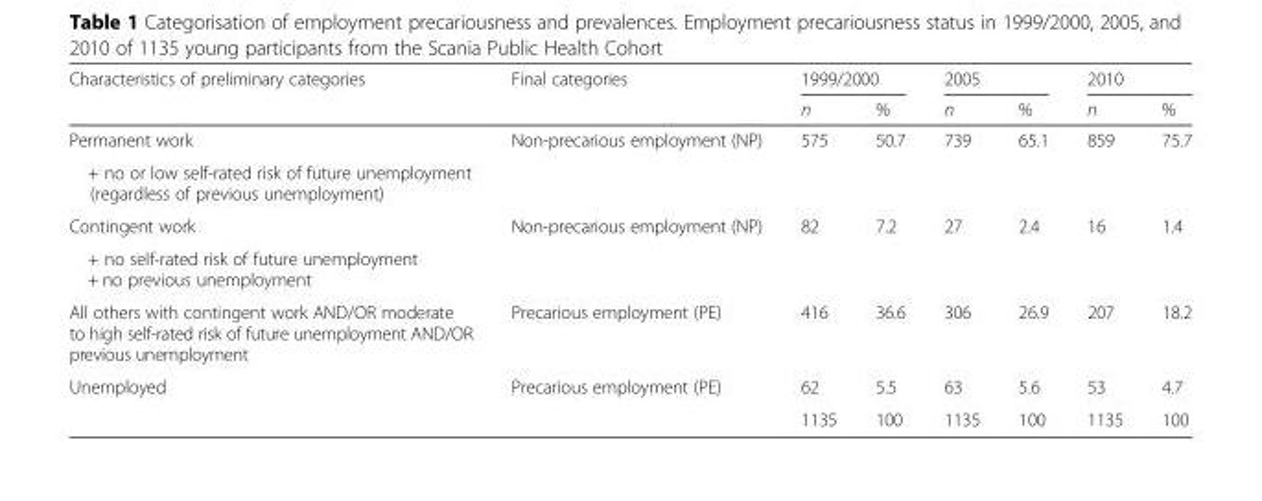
<table><thead><tr><td rowspan="2">Characteristics of preliminary categories</td><td rowspan="2">Final categories</td><td colspan="2">1999/2000</td><td colspan="2">2005</td><td colspan="2">2010</td></tr><tr><td>n</td><td>%</td><td>n</td><td>%</td><td>n</td><td>%</td></tr></thead><tbody><tr><td>Permanent work</td><td rowspan="2">Non-precarious employment (NP)</td><td rowspan="2">575</td><td rowspan="2">50.7</td><td rowspan="2">739</td><td rowspan="2">65.1</td><td rowspan="2">859</td><td rowspan="2">75.7</td></tr><tr><td>+ no or low self-rated risk of future unemployment (regardless of previous unemployment)</td></tr><tr><td>Contingent work</td><td rowspan="2">Non-precarious employment (NP)</td><td rowspan="2">82</td><td rowspan="2">7.2</td><td rowspan="2">27</td><td rowspan="2">2.4</td><td rowspan="2">16</td><td rowspan="2">1.4</td></tr><tr><td>+ no self-rated risk of future unemployment + no previous unemployment</td></tr><tr><td>All others with contingent work AND/OR moderate to high self-rated risk of future unemployment AND/OR previous unemployment</td><td>Precarious employment (PE)</td><td>416</td><td>36.6</td><td>306</td><td>26.9</td><td>207</td><td>18.2</td></tr><tr><td rowspan="2">Unemployed</td><td>Precarious employment (PE)</td><td>62</td><td>5.5</td><td>63</td><td>5.6</td><td>53</td><td>4.7</td></tr><tr><td></td><td>1135</td><td>100</td><td>1135</td><td>100</td><td>1135</td><td>100</td></tr></tbody></table>